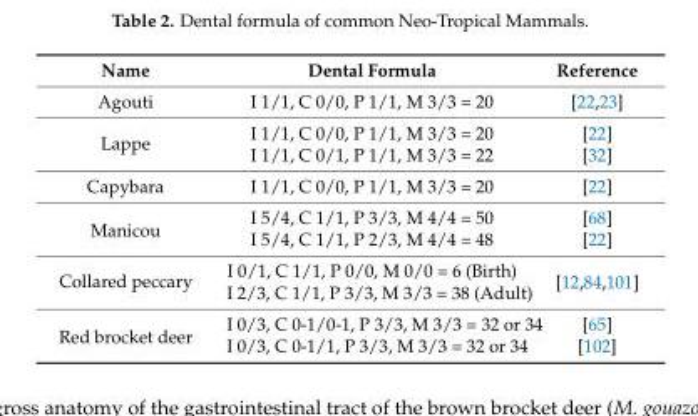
<table><thead><tr><td>Name</td><td>Dental Formula</td><td>Reference</td></tr></thead><tbody><tr><td>Agouti</td><td>I 1/1, C 0/0, P 1/1, M 3/3 = 20</td><td>[22,23]</td></tr><tr><td rowspan="2">Lappe</td><td>I 1/1, C 0/0, P 1/1, M 3/3 = 20</td><td>[22]</td></tr><tr><td>I 1/1, C 0/1, P 1/1, M 3/3 = 22</td><td>[32]</td></tr><tr><td>Capybara</td><td>I 1/1, C 0/0, P 1/1, M 3/3 = 20</td><td>[22]</td></tr><tr><td rowspan="2">Manicou</td><td>I 5/4, C 1/1, P 3/3, M 4/4 = 50</td><td>[68]</td></tr><tr><td>I 5/4, C 1/1, P 2/3, M 4/4 = 48</td><td>[22]</td></tr><tr><td rowspan="2">Collared peccary</td><td>I 0/1, C 1/1, P 0/0, M 0/0 = 6 (Birth)</td><td rowspan="2">[12,84,101]</td></tr><tr><td>I 2/3, C 1/1, P 3/3, M 3/3 = 38 (Adult)</td></tr><tr><td rowspan="2">Red brocket deer</td><td>I 0/3, C 0-1/0-1, P 3/3, M 3/3 = 32 or 34</td><td>[65]</td></tr><tr><td>I 0/3, C 0-1/1, P 3/3, M 3/3 = 32 or 34</td><td>[102]</td></tr></tbody></table>